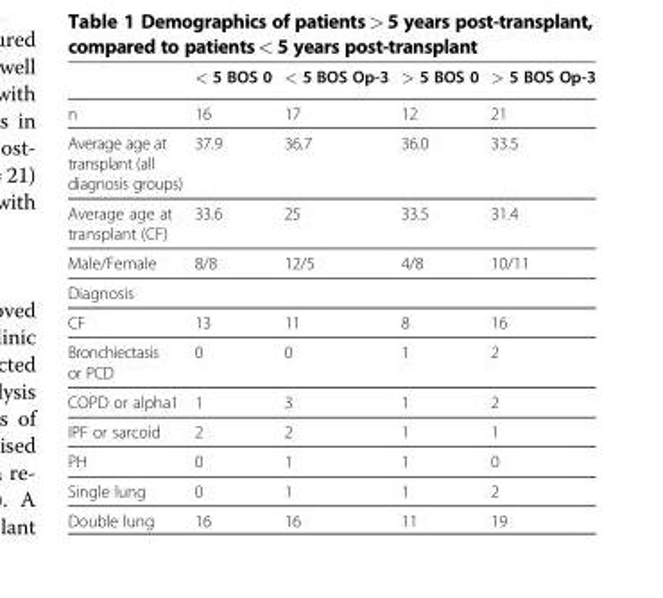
<table><thead><tr><td></td><td>&lt; 5 BOS 0</td><td>&lt; 5 BOS Op-3</td><td>&gt; 5 BOS 0</td><td>&gt; 5 BOS Op-3</td></tr></thead><tbody><tr><td>n</td><td>16</td><td>17</td><td>12</td><td>21</td></tr><tr><td>Average age at transplant (all diagnosis groups)</td><td>37.9</td><td>36.7</td><td>36.0</td><td>33.5</td></tr><tr><td>Average age at transplant (CF)</td><td>33.6</td><td>25</td><td>33.5</td><td>31.4</td></tr><tr><td>Male/Female</td><td>8/8</td><td>12/5</td><td>4/8</td><td>10/11</td></tr><tr><td colspan="5">Diagnosis</td></tr><tr><td>CF</td><td>13</td><td>11</td><td>8</td><td>16</td></tr><tr><td>Bronchiectasis or PCD</td><td>0</td><td>0</td><td>1</td><td>2</td></tr><tr><td>COPD or alpha1</td><td>1</td><td>3</td><td>1</td><td>2</td></tr><tr><td>IPF or sarcoid</td><td>2</td><td>2</td><td>1</td><td>1</td></tr><tr><td>PH</td><td>0</td><td>1</td><td>1</td><td>0</td></tr><tr><td>Single lung</td><td>0</td><td>1</td><td>1</td><td>2</td></tr><tr><td>Double lung</td><td>16</td><td>16</td><td>11</td><td>19</td></tr></tbody></table>